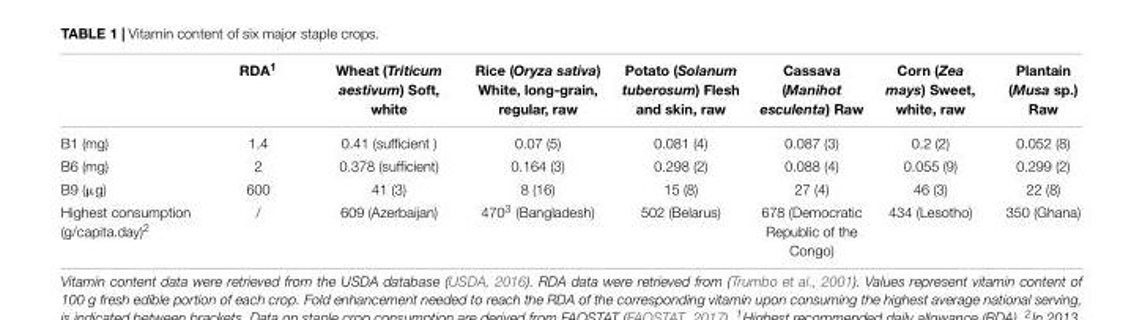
<table><thead><tr><td></td><td>RDA<sup>1</sup></td><td>Wheat (Triticum aestivum) Soft, white</td><td>Rice (Oryza sativa) White, long-grain, regular, raw</td><td>Potato (Solanum tuberosum) Flesh and skin, raw</td><td>Cassava (Manihot esculenta) Raw</td><td>Corn (Zea mays) Sweet, white, raw</td><td>Plantain (Musa sp.) Raw</td></tr></thead><tbody><tr><td>B1 (mg)</td><td>1.4</td><td>0.41 (sufficient )</td><td>0.07 (5)</td><td>0.081 (4)</td><td>0.087 (3)</td><td>0.2 (2)</td><td>0.052 (8)</td></tr><tr><td>B6 (mg)</td><td>2</td><td>0.378 (sufficient)</td><td>0.164 (3)</td><td>0.298 (2)</td><td>0.088 (4)</td><td>0.055 (9)</td><td>0.299 (2)</td></tr><tr><td>B9 (µg)</td><td>600</td><td>41 (3)</td><td>8 (16)</td><td>15 (8)</td><td>27 (4)</td><td>46 (3)</td><td>22 (8)</td></tr><tr><td>Highest consumption (g/capita.day)<sup>2</sup></td><td>/</td><td>609 (Azerbaijan)</td><td>470<sup>3</sup> (Bangladesh)</td><td>502 (Belarus)</td><td>678 (Democratic Republic of the Congo)</td><td>434 (Lesotho)</td><td>350 (Ghana)</td></tr></tbody></table>